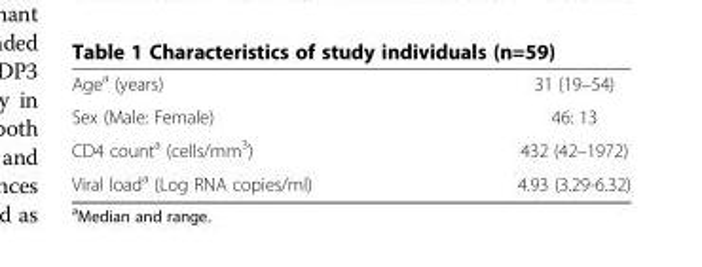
<table><tbody><tr><td>Age<sup>a</sup> (years)</td><td>31 (19–54)</td></tr><tr><td>Sex (Male: Female)</td><td>46: 13</td></tr><tr><td>CD4 count<sup>a</sup> (cells/mm<sup>3</sup>)</td><td>432 (42–1972)</td></tr><tr><td>Viral load<sup>a</sup> (Log RNA copies/ml)</td><td>4.93 (3.29-6.32)</td></tr></tbody></table>